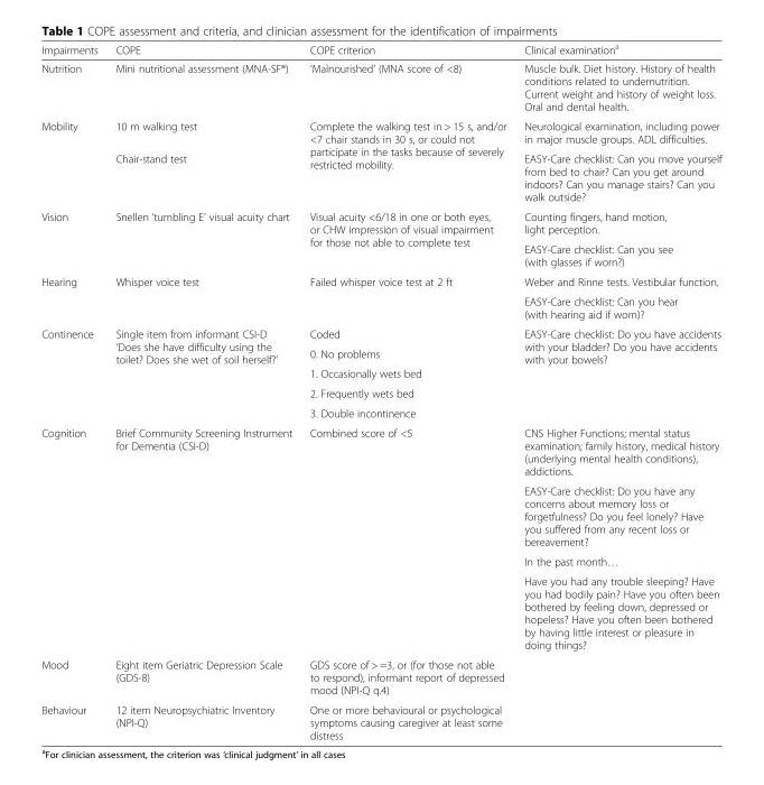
<table><thead><tr><td>Impairments</td><td>COPE</td><td>COPE criterion</td><td>Clinical examination<sup>a</sup></td></tr></thead><tbody><tr><td>Nutrition</td><td>Mini nutritional assessment (MNA-SF®)</td><td>‘Malnourished’ (MNA score of &lt;8)</td><td>Muscle bulk. Diet history. History of health conditions related to undernutrition. Current weight and history of weight loss. Oral and dental health.</td></tr><tr><td rowspan="2">Mobility</td><td>10 m walking test</td><td rowspan="2">Complete the walking test in &gt; 15 s, and/or &lt;7 chair stands in 30 s, or could not participate in the tasks because of severely restricted mobility.</td><td>Neurological examination, including power in major muscle groups. ADL difficulties.</td></tr><tr><td>Chair-stand test</td><td>EASY-Care checklist: Can you move yourself from bed to chair? Can you get around indoors? Can you manage stairs? Can you walk outside?</td></tr><tr><td rowspan="2">Vision</td><td rowspan="2">Snellen ‘tumbling E’ visual acuity chart</td><td rowspan="2">Visual acuity &lt;6/18 in one or both eyes, or CHW impression of visual impairment for those not able to complete test</td><td>Counting fingers, hand motion, light perception.</td></tr><tr><td>EASY-Care checklist: Can you see (with glasses if worn?)</td></tr><tr><td rowspan="2">Hearing</td><td rowspan="2">Whisper voice test</td><td rowspan="2">Failed whisper voice test at 2 ft</td><td>Weber and Rinne tests. Vestibular function.</td></tr><tr><td>EASY-Care checklist: Can you hear (with hearing aid if worn)?</td></tr><tr><td rowspan="5">Continence</td><td rowspan="5">Single item from informant CSI-D ‘Does she have difficulty using the toilet? Does she wet of soil herself?’</td><td>Coded</td><td rowspan="5">EASY-Care checklist: Do you have accidents with your bladder? Do you have accidents with your bowels?</td></tr><tr><td>0. No problems</td></tr><tr><td>1. Occasionally wets bed</td></tr><tr><td>2. Frequently wets bed</td></tr><tr><td>3. Double incontinence</td></tr><tr><td rowspan="4">Cognition</td><td rowspan="4">Brief Community Screening Instrument for Dementia (CSI-D)</td><td rowspan="4">Combined score of &lt;5</td><td>CNS Higher Functions; mental status examination; family history, medical history (underlying mental health conditions), addictions.</td></tr><tr><td>EASY-Care checklist: Do you have any concerns about memory loss or forgetfulness? Do you feel lonely? Have you suffered from any recent loss or bereavement?</td></tr><tr><td>In the past month…</td></tr><tr><td>Have you had any trouble sleeping? Have you had bodily pain? Have you often been bothered by feeling down, depressed or hopeless? Have you often been bothered by having little interest or pleasure in doing things?</td></tr><tr><td>Mood</td><td>Eight item Geriatric Depression Scale (GDS-8)</td><td>GDS score of &gt; =3, or (for those not able to respond), informant report of depressed mood (NPI-Q q.4)</td><td rowspan="2"></td></tr><tr><td>Behaviour</td><td>12 item Neuropsychiatric Inventory (NPI-Q)</td><td>One or more behavioural or psychological symptoms causing caregiver at least some distress</td></tr></tbody></table>